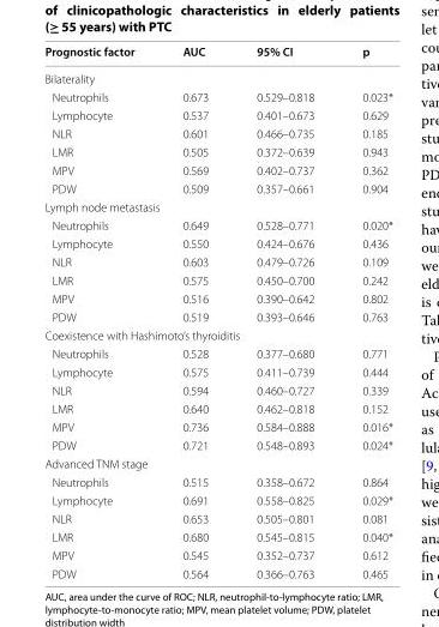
<table><thead><tr><td>Prognostic factor</td><td>AUC</td><td>95% CI</td><td>p</td></tr></thead><tbody><tr><td colspan="4">Bilaterality</td></tr><tr><td>Neutrophils</td><td>0.673</td><td>0.529–0.818</td><td>0.023*</td></tr><tr><td>Lymphocyte</td><td>0.537</td><td>0.401–0.673</td><td>0.629</td></tr><tr><td>NLR</td><td>0.601</td><td>0.466–0.735</td><td>0.185</td></tr><tr><td>LMR</td><td>0.505</td><td>0.372–0.639</td><td>0.943</td></tr><tr><td>MPV</td><td>0.569</td><td>0.402–0.737</td><td>0.362</td></tr><tr><td>PDW</td><td>0.509</td><td>0.357–0.661</td><td>0.904</td></tr><tr><td colspan="4">Lymph node metastasis</td></tr><tr><td>Neutrophils</td><td>0.649</td><td>0.528–0.771</td><td>0.020*</td></tr><tr><td>Lymphocyte</td><td>0.550</td><td>0.424–0.676</td><td>0.436</td></tr><tr><td>NLR</td><td>0.603</td><td>0.479–0.726</td><td>0.109</td></tr><tr><td>LMR</td><td>0.575</td><td>0.450–0.700</td><td>0.242</td></tr><tr><td>MPV</td><td>0.516</td><td>0.390–0.642</td><td>0.802</td></tr><tr><td>PDW</td><td>0.519</td><td>0.393–0.646</td><td>0.763</td></tr><tr><td colspan="4">Coexistence with Hashimoto’s thyroiditis</td></tr><tr><td>Neutrophils</td><td>0.528</td><td>0.377–0.680</td><td>0.771</td></tr><tr><td>Lymphocyte</td><td>0.575</td><td>0.411–0.739</td><td>0.444</td></tr><tr><td>NLR</td><td>0.594</td><td>0.460–0.727</td><td>0.339</td></tr><tr><td>LMR</td><td>0.640</td><td>0.462–0.818</td><td>0.152</td></tr><tr><td>MPV</td><td>0.736</td><td>0.584–0.888</td><td>0.016*</td></tr><tr><td>PDW</td><td>0.721</td><td>0.548–0.893</td><td>0.024*</td></tr><tr><td colspan="4">Advanced TNM stage</td></tr><tr><td>Neutrophils</td><td>0.515</td><td>0.358–0.672</td><td>0.864</td></tr><tr><td>Lymphocyte</td><td>0.691</td><td>0.558–0.825</td><td>0.029*</td></tr><tr><td>NLR</td><td>0.653</td><td>0.505–0.801</td><td>0.081</td></tr><tr><td>LMR</td><td>0.680</td><td>0.545–0.815</td><td>0.040*</td></tr><tr><td>MPV</td><td>0.545</td><td>0.352–0.737</td><td>0.612</td></tr><tr><td>PDW</td><td>0.564</td><td>0.366–0.763</td><td>0.465</td></tr></tbody></table>